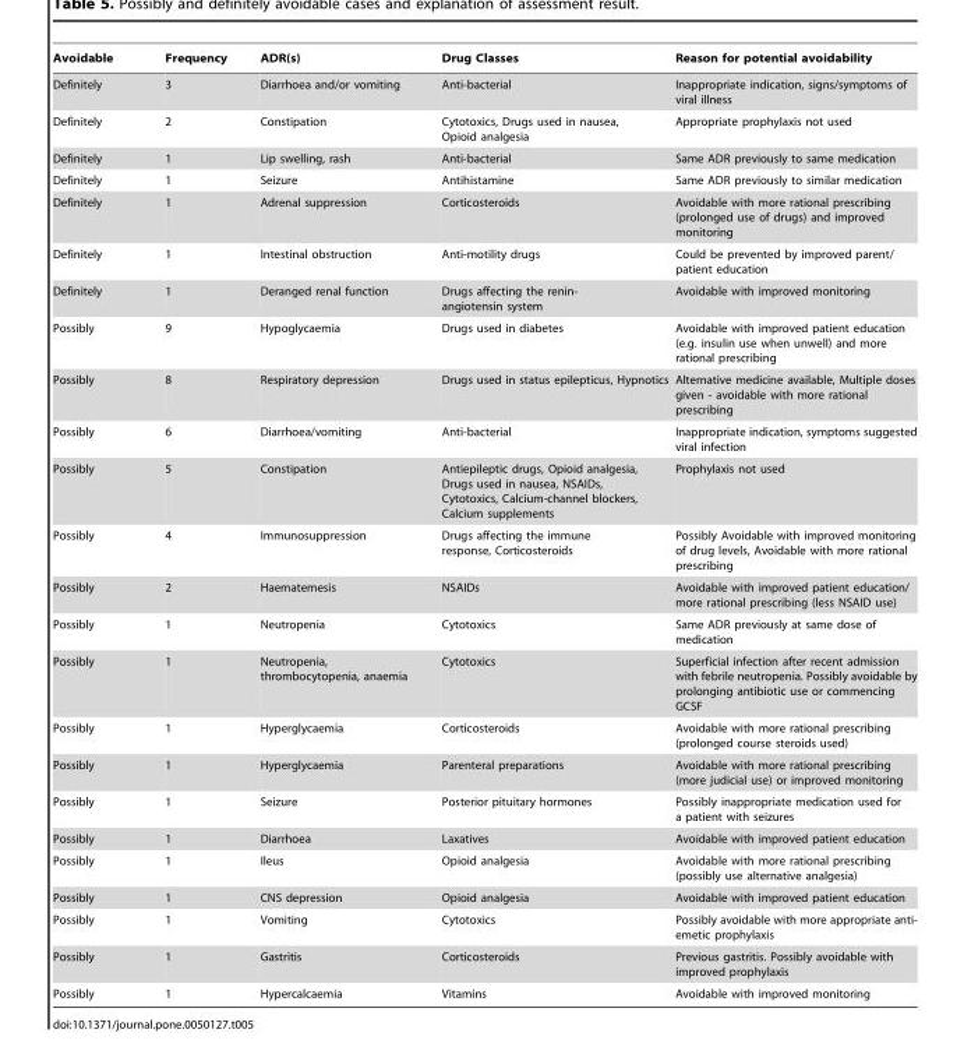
<table><thead><tr><td>Avoidable</td><td>Frequency</td><td>ADR(s)</td><td>Drug Classes</td><td>Reason for potential avoidability</td></tr></thead><tbody><tr><td>Definitely</td><td>3</td><td>Diarrhoea and/or vomiting</td><td>Anti-bacterial</td><td>Inappropriate indication, signs/symptoms of viral illness</td></tr><tr><td>Definitely</td><td>2</td><td>Constipation</td><td>Cytotoxics, Drugs used in nausea, Opioid analgesia</td><td>Appropriate prophylaxis not used</td></tr><tr><td>Definitely</td><td>1</td><td>Lip swelling, rash</td><td>Anti-bacterial</td><td>Same ADR previously to same medication</td></tr><tr><td>Definitely</td><td>1</td><td>Seizure</td><td>Antihistamine</td><td>Same ADR previously to similar medication</td></tr><tr><td>Definitely</td><td>1</td><td>Adrenal suppression</td><td>Corticosteroids</td><td>Avoidable with more rational prescribing (prolonged use of drugs) and improved monitoring</td></tr><tr><td>Definitely</td><td>1</td><td>Intestinal obstruction</td><td>Anti-motility drugs</td><td>Could be prevented by improved parent/ patient education</td></tr><tr><td>Definitely</td><td>1</td><td>Deranged renal function</td><td>Drugs affecting the renin- angiotensin system</td><td>Avoidable with improved monitoring</td></tr><tr><td>Possibly</td><td>9</td><td>Hypoglycaemia</td><td>Drugs used in diabetes</td><td>Avoidable with improved patient education (e.g. insulin use when unwell) and more rational prescribing</td></tr><tr><td>Possibly</td><td>8</td><td>Respiratory depression</td><td>Drugs used in status epilepticus, Hypnotics</td><td>Alternative medicine available, Multiple doses given - avoidable with more rational prescribing</td></tr><tr><td>Possibly</td><td>6</td><td>Diarrhoea/vomiting</td><td>Anti-bacterial</td><td>Inappropriate indication, symptoms suggested viral infection</td></tr><tr><td>Possibly</td><td>5</td><td>Constipation</td><td>Antiepileptic drugs, Opioid analgesia, Drugs used in nausea, NSAIDs, Cytotoxics, Calcium-channel blockers, Calcium supplements</td><td>Prophylaxis not used</td></tr><tr><td>Possibly</td><td>4</td><td>Immunosuppression</td><td>Drugs affecting the immune response, Corticosteroids</td><td>Possibly Avoidable with improved monitoring of drug levels, Avoidable with more rational prescribing</td></tr><tr><td>Possibly</td><td>2</td><td>Haematemesis</td><td>NSAIDs</td><td>Avoidable with improved patient education/ more rational prescribing (less NSAID use)</td></tr><tr><td>Possibly</td><td>1</td><td>Neutropenia</td><td>Cytotoxics</td><td>Same ADR previously at same dose of medication</td></tr><tr><td>Possibly</td><td>1</td><td>Neutropenia, thrombocytopenia, anaemia</td><td>Cytotoxics</td><td>Superficial infection after recent admission with febrile neutropenia. Possibly avoidable by prolonging antibiotic use or commencing GCSF</td></tr><tr><td>Possibly</td><td>1</td><td>Hyperglycaemia</td><td>Corticosteroids</td><td>Avoidable with more rational prescribing (prolonged course steroids used)</td></tr><tr><td>Possibly</td><td>1</td><td>Hyperglycaemia</td><td>Parenteral preparations</td><td>Avoidable with more rational prescribing (more judicial use) or improved monitoring</td></tr><tr><td>Possibly</td><td>1</td><td>Seizure</td><td>Posterior pituitary hormones</td><td>Possibly inappropriate medication used for a patient with seizures</td></tr><tr><td>Possibly</td><td>1</td><td>Diarrhoea</td><td>Laxatives</td><td>Avoidable with improved patient education</td></tr><tr><td>Possibly</td><td>1</td><td>Ileus</td><td>Opioid analgesia</td><td>Avoidable with more rational prescribing (possibly use alternative analgesia)</td></tr><tr><td>Possibly</td><td>1</td><td>CNS depression</td><td>Opioid analgesia</td><td>Avoidable with improved patient education</td></tr><tr><td>Possibly</td><td>1</td><td>Vomiting</td><td>Cytotoxics</td><td>Possibly avoidable with more appropriate anti- emetic prophylaxis</td></tr><tr><td>Possibly</td><td>1</td><td>Gastritis</td><td>Corticosteroids</td><td>Previous gastritis. Possibly avoidable with improved prophylaxis</td></tr><tr><td>Possibly</td><td>1</td><td>Hypercalcaemia</td><td>Vitamins</td><td>Avoidable with improved monitoring</td></tr></tbody></table>